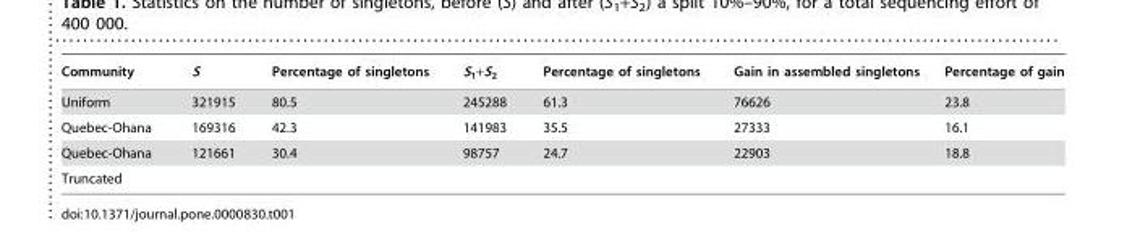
<table><thead><tr><td>Community</td><td>S</td><td>Percentage of singletons</td><td>S<sub>1</sub>+S<sub>2</sub></td><td>Percentage of singletons</td><td>Gain in assembled singletons</td><td>Percentage of gain</td></tr></thead><tbody><tr><td>Uniform</td><td>321915</td><td>80.5</td><td>245288</td><td>61.3</td><td>76626</td><td>23.8</td></tr><tr><td>Quebec-Ohana</td><td>169316</td><td>42.3</td><td>141983</td><td>35.5</td><td>27333</td><td>16.1</td></tr><tr><td>Quebec-Ohana</td><td>121661</td><td>30.4</td><td>98757</td><td>24.7</td><td>22903</td><td>18.8</td></tr><tr><td>Truncated</td><td></td><td></td><td></td><td></td><td></td><td></td></tr></tbody></table>